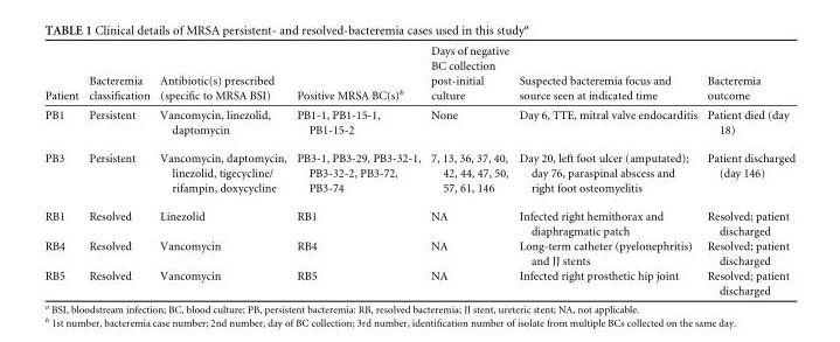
<table><thead><tr><td>Patient</td><td>Bacteremia classification</td><td>Antibiotic(s) prescribed (specific to MRSA BSI)</td><td>Positive MRSA BC(s)<sup>b</sup></td><td>Days of negative BC collection post-initial culture</td><td>Suspected bacteremia focus and source seen at indicated time</td><td>Bacteremia outcome</td></tr></thead><tbody><tr><td>PB1</td><td>Persistent</td><td>Vancomycin, linezolid, daptomycin</td><td>PB1-1, PB1-15-1, PB1-15-2</td><td>None</td><td>Day 6, TTE, mitral valve endocarditis</td><td>Patient died (day 18)</td></tr><tr><td>PB3</td><td>Persistent</td><td>Vancomycin, daptomycin, linezolid, tigecycline/ rifampin, doxycycline</td><td>PB3-1, PB3-29, PB3-32-1, PB3-32-2, PB3-72, PB3-74</td><td>7, 13, 36, 37, 40, 42, 44, 47, 50, 57, 61, 146</td><td>Day 20, left foot ulcer (amputated); day 76, paraspinal abscess and right foot osteomyelitis</td><td>Patient discharged (day 146)</td></tr><tr><td>RB1</td><td>Resolved</td><td>Linezolid</td><td>RB1</td><td>NA</td><td>Infected right hemithorax and diaphragmatic patch</td><td>Resolved; patient discharged</td></tr><tr><td>RB4</td><td>Resolved</td><td>Vancomycin</td><td>RB4</td><td>NA</td><td>Long-term catheter (pyelonephritis) and JJ stents</td><td>Resolved; patient discharged</td></tr><tr><td>RB5</td><td>Resolved</td><td>Vancomycin</td><td>RB5</td><td>NA</td><td>Infected right prosthetic hip joint</td><td>Resolved; patient discharged</td></tr></tbody></table>